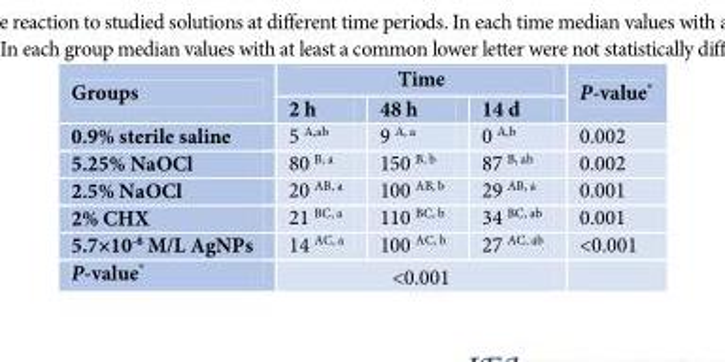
<table><thead><tr><td rowspan="2">Groups</td><td colspan="3">Time</td><td rowspan="2">P-value*</td></tr><tr><td>2 h</td><td>48 h</td><td>14 d</td></tr></thead><tbody><tr><td>0.9% sterile saline</td><td>5 <sup>A,ab</sup></td><td>9 <sup>A, a</sup></td><td>0 <sup>A,b</sup></td><td>0.002</td></tr><tr><td>5.25% NaOCl</td><td>80 <sup>B, a</sup></td><td>150 <sup>B, b</sup></td><td>87 <sup>B, ab</sup></td><td>0.002</td></tr><tr><td>2.5% NaOCl</td><td>20 <sup>AB, a</sup></td><td>100 <sup>AB, b</sup></td><td>29 <sup>AB, a</sup></td><td>0.001</td></tr><tr><td>2% CHX</td><td>21 <sup>BC, a</sup></td><td>110 <sup>BC, b</sup></td><td>34 <sup>BC, ab</sup></td><td>0.001</td></tr><tr><td>5.7×10<sup>-8</sup> M/L AgNPs</td><td>14 <sup>AC, a</sup></td><td>100 <sup>AC, b</sup></td><td>27 <sup>AC, ab</sup></td><td>&lt;0.001</td></tr><tr><td>P-value*</td><td colspan="3">&lt;0.001</td><td></td></tr></tbody></table>